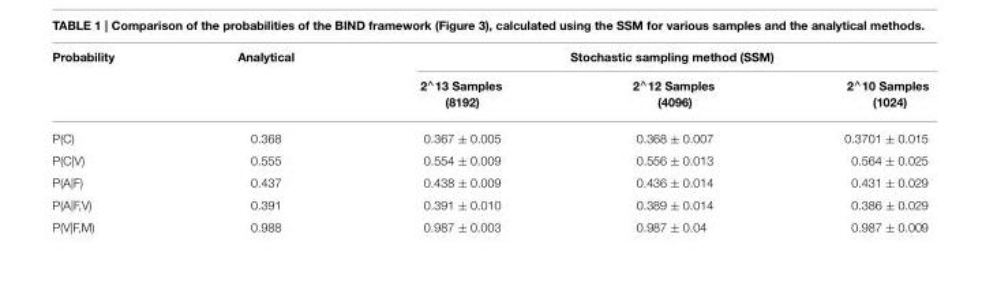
<table><thead><tr><td rowspan="2">Probability</td><td rowspan="2">Analytical</td><td colspan="3">Stochastic sampling method (SSM)</td></tr><tr><td>2<sup>∧</sup>13 Samples (8192)</td><td>2<sup>∧</sup>12 Samples (4096)</td><td>2<sup>∧</sup>10 Samples (1024)</td></tr></thead><tbody><tr><td>P(C)</td><td>0.368</td><td>0.367 ± 0.005</td><td>0.368 ± 0.007</td><td>0.3701 ± 0.015</td></tr><tr><td>P(C|V)</td><td>0.555</td><td>0.554 ± 0.009</td><td>0.556 ± 0.013</td><td>0.564 ± 0.025</td></tr><tr><td>P(A|F)</td><td>0.437</td><td>0.438 ± 0.009</td><td>0.436 ± 0.014</td><td>0.431 ± 0.029</td></tr><tr><td>P(A|F,V)</td><td>0.391</td><td>0.391 ± 0.010</td><td>0.389 ± 0.014</td><td>0.386 ± 0.029</td></tr><tr><td>P(V|F,M)</td><td>0.988</td><td>0.987 ± 0.003</td><td>0.987 ± 0.04</td><td>0.987 ± 0.009</td></tr></tbody></table>